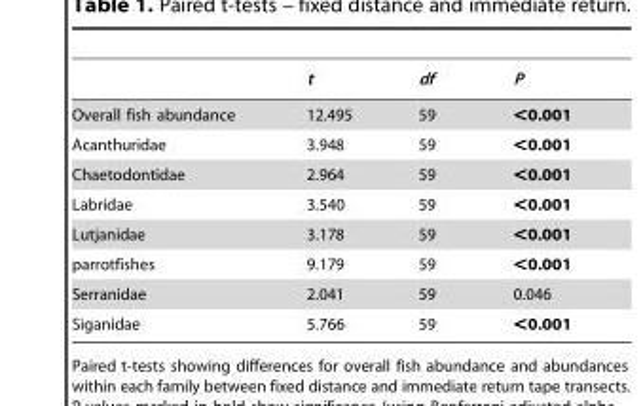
<table><thead><tr><td></td><td>t</td><td>df</td><td>P</td></tr></thead><tbody><tr><td>Overall fish abundance</td><td>12.495</td><td>59</td><td>&lt;0.001</td></tr><tr><td>Acanthuridae</td><td>3.948</td><td>59</td><td>&lt;0.001</td></tr><tr><td>Chaetodontidae</td><td>2.964</td><td>59</td><td>&lt;0.001</td></tr><tr><td>Labridae</td><td>3.540</td><td>59</td><td>&lt;0.001</td></tr><tr><td>Lutjanidae</td><td>3.178</td><td>59</td><td>&lt;0.001</td></tr><tr><td>parrotfishes</td><td>9.179</td><td>59</td><td>&lt;0.001</td></tr><tr><td>Serranidae</td><td>2.041</td><td>59</td><td>0.046</td></tr><tr><td>Siganidae</td><td>5.766</td><td>59</td><td>&lt;0.001</td></tr></tbody></table>